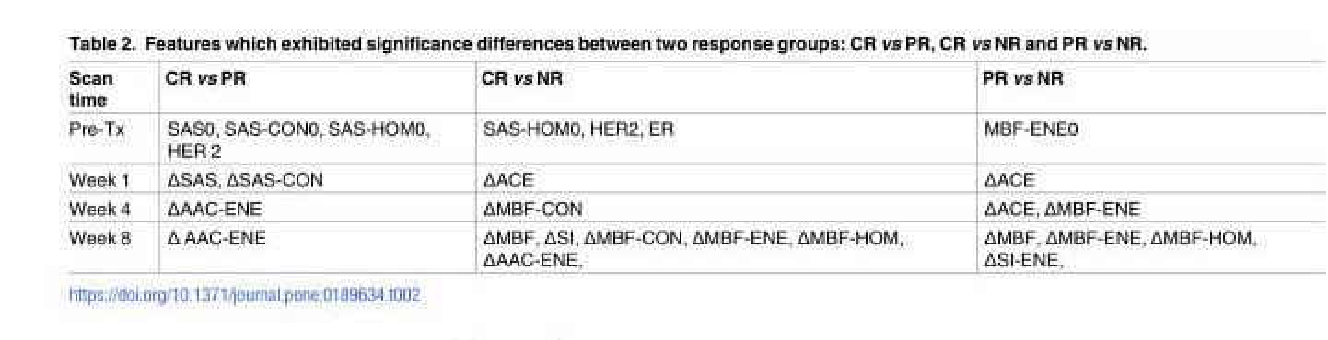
<table><thead><tr><td>Scan time</td><td>CR vs PR</td><td>CR vs NR</td><td>PR vs NR</td></tr></thead><tbody><tr><td>Pre-Tx</td><td>SAS0, SAS-CON0, SAS-HOM0, HER 2</td><td>SAS-HOM0, HER2, ER</td><td>MBF-ENE0</td></tr><tr><td>Week 1</td><td>ΔSAS, ΔSAS-CON</td><td>ΔACE</td><td>ΔACE</td></tr><tr><td>Week 4</td><td>ΔAAC-ENE</td><td>ΔMBF-CON</td><td>ΔACE, ΔMBF-ENE</td></tr><tr><td>Week 8</td><td>Δ AAC-ENE</td><td>ΔMBF, ΔSI, ΔMBF-CON, ΔMBF-ENE, ΔMBF-HOM, ΔAAC-ENE,</td><td>ΔMBF, ΔMBF-ENE, ΔMBF-HOM, ΔSI-ENE,</td></tr></tbody></table>